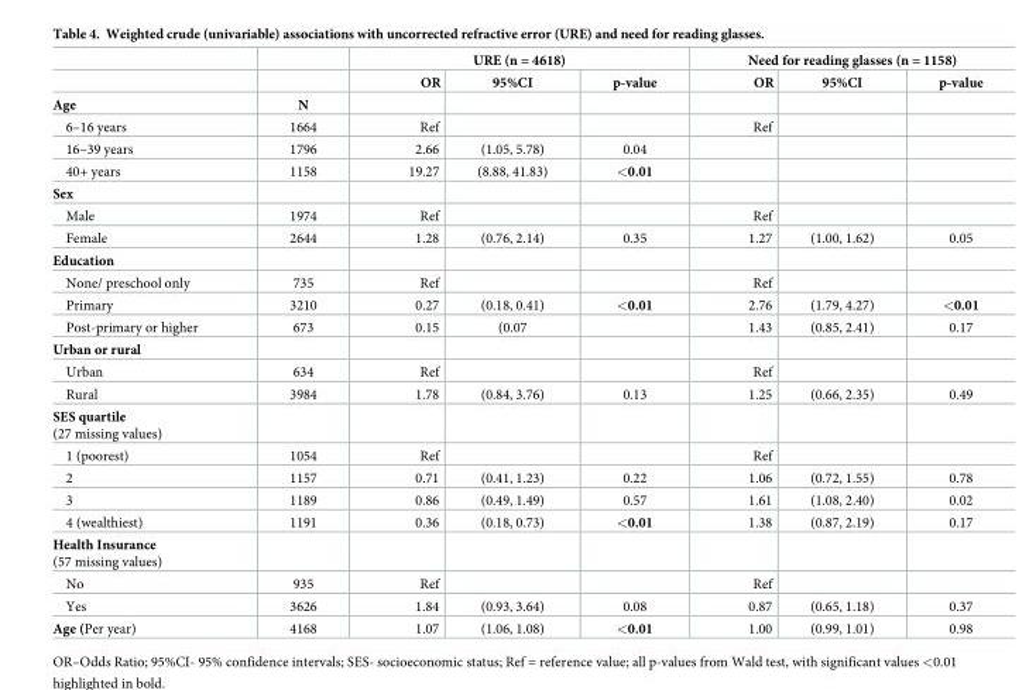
<table><thead><tr><td rowspan="2"></td><td rowspan="2"></td><td colspan="3">URE (n = 4618)</td><td colspan="3">Need for reading glasses (n = 1158)</td></tr><tr><td>OR</td><td>95%CI</td><td>p-value</td><td>OR</td><td>95%CI</td><td>p-value</td></tr></thead><tbody><tr><td>Age</td><td>N</td><td></td><td></td><td></td><td></td><td></td><td></td></tr><tr><td>6–16 years</td><td>1664</td><td>Ref</td><td></td><td></td><td>Ref</td><td></td><td></td></tr><tr><td>16–39 years</td><td>1796</td><td>2.66</td><td>(1.05, 5.78)</td><td>0.04</td><td></td><td></td><td></td></tr><tr><td>40+ years</td><td>1158</td><td>19.27</td><td>(8.88, 41.83)</td><td>&lt;0.01</td><td></td><td></td><td></td></tr><tr><td colspan="8">Sex</td></tr><tr><td>Male</td><td>1974</td><td>Ref</td><td></td><td></td><td>Ref</td><td></td><td></td></tr><tr><td>Female</td><td>2644</td><td>1.28</td><td>(0.76, 2.14)</td><td>0.35</td><td>1.27</td><td>(1.00, 1.62)</td><td>0.05</td></tr><tr><td colspan="8">Education</td></tr><tr><td>None/ preschool only</td><td>735</td><td>Ref</td><td></td><td></td><td>Ref</td><td></td><td></td></tr><tr><td>Primary</td><td>3210</td><td>0.27</td><td>(0.18, 0.41)</td><td>&lt;0.01</td><td>2.76</td><td>(1.79, 4.27)</td><td>&lt;0.01</td></tr><tr><td>Post-primary or higher</td><td>673</td><td>0.15</td><td>(0.07</td><td></td><td>1.43</td><td>(0.85, 2.41)</td><td>0.17</td></tr><tr><td colspan="8">Urban or rural</td></tr><tr><td>Urban</td><td>634</td><td>Ref</td><td></td><td></td><td>Ref</td><td></td><td></td></tr><tr><td>Rural</td><td>3984</td><td>1.78</td><td>(0.84, 3.76)</td><td>0.13</td><td>1.25</td><td>(0.66, 2.35)</td><td>0.49</td></tr><tr><td colspan="8">SES quartile (27 missing values)</td></tr><tr><td>1 (poorest)</td><td>1054</td><td>Ref</td><td></td><td></td><td>Ref</td><td></td><td></td></tr><tr><td>2</td><td>1157</td><td>0.71</td><td>(0.41, 1.23)</td><td>0.22</td><td>1.06</td><td>(0.72, 1.55)</td><td>0.78</td></tr><tr><td>3</td><td>1189</td><td>0.86</td><td>(0.49, 1.49)</td><td>0.57</td><td>1.61</td><td>(1.08, 2.40)</td><td>0.02</td></tr><tr><td>4 (wealthiest)</td><td>1191</td><td>0.36</td><td>(0.18, 0.73)</td><td>&lt;0.01</td><td>1.38</td><td>(0.87, 2.19)</td><td>0.17</td></tr><tr><td colspan="8">Health Insurance (57 missing values)</td></tr><tr><td>No</td><td>935</td><td>Ref</td><td></td><td></td><td>Ref</td><td></td><td></td></tr><tr><td>Yes</td><td>3626</td><td>1.84</td><td>(0.93, 3.64)</td><td>0.08</td><td>0.87</td><td>(0.65, 1.18)</td><td>0.37</td></tr><tr><td>Age (Per year)</td><td>4168</td><td>1.07</td><td>(1.06, 1.08)</td><td>&lt;0.01</td><td>1.00</td><td>(0.99, 1.01)</td><td>0.98</td></tr></tbody></table>